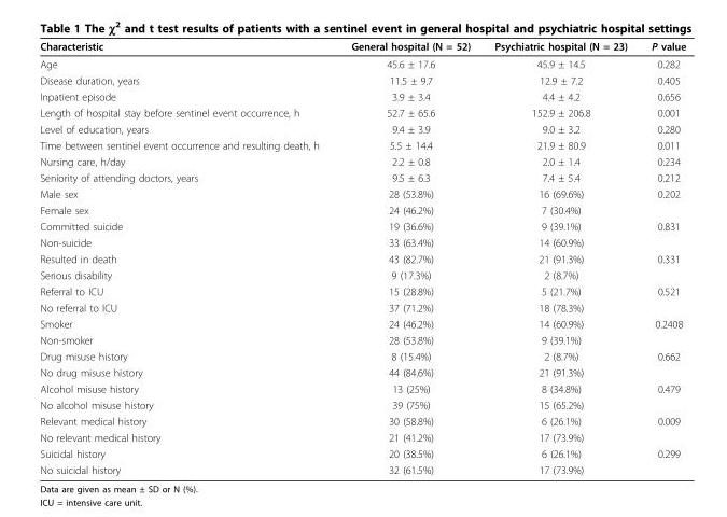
<table><thead><tr><td>Characteristic</td><td>General hospital (N = 52)</td><td>Psychiatric hospital (N = 23)</td><td>P value</td></tr></thead><tbody><tr><td>Age</td><td>45.6 ± 17.6</td><td>45.9 ± 14.5</td><td>0.282</td></tr><tr><td>Disease duration, years</td><td>11.5 ± 9.7</td><td>12.9 ± 7.2</td><td>0.405</td></tr><tr><td>Inpatient episode</td><td>3.9 ± 3.4</td><td>4.4 ± 4.2</td><td>0.656</td></tr><tr><td>Length of hospital stay before sentinel event occurrence, h</td><td>52.7 ± 65.6</td><td>152.9 ± 206.8</td><td>0.001</td></tr><tr><td>Level of education, years</td><td>9.4 ± 3.9</td><td>9.0 ± 3.2</td><td>0.280</td></tr><tr><td>Time between sentinel event occurrence and resulting death, h</td><td>5.5 ± 14.4</td><td>21.9 ± 80.9</td><td>0.011</td></tr><tr><td>Nursing care, h/day</td><td>2.2 ± 0.8</td><td>2.0 ± 1.4</td><td>0.234</td></tr><tr><td>Seniority of attending doctors, years</td><td>9.5 ± 6.3</td><td>7.4 ± 5.4</td><td>0.212</td></tr><tr><td>Male sex</td><td>28 (53.8%)</td><td>16 (69.6%)</td><td>0.202</td></tr><tr><td>Female sex</td><td>24 (46.2%)</td><td>7 (30.4%)</td><td></td></tr><tr><td>Committed suicide</td><td>19 (36.6%)</td><td>9 (39.1%)</td><td>0.831</td></tr><tr><td>Non-suicide</td><td>33 (63.4%)</td><td>14 (60.9%)</td><td></td></tr><tr><td>Resulted in death</td><td>43 (82.7%)</td><td>21 (91.3%)</td><td>0.331</td></tr><tr><td>Serious disability</td><td>9 (17.3%)</td><td>2 (8.7%)</td><td></td></tr><tr><td>Referral to ICU</td><td>15 (28.8%)</td><td>5 (21.7%)</td><td>0.521</td></tr><tr><td>No referral to ICU</td><td>37 (71.2%)</td><td>18 (78.3%)</td><td></td></tr><tr><td>Smoker</td><td>24 (46.2%)</td><td>14 (60.9%)</td><td>0.2408</td></tr><tr><td>Non-smoker</td><td>28 (53.8%)</td><td>9 (39.1%)</td><td></td></tr><tr><td>Drug misuse history</td><td>8 (15.4%)</td><td>2 (8.7%)</td><td>0.662</td></tr><tr><td>No drug misuse history</td><td>44 (84.6%)</td><td>21 (91.3%)</td><td></td></tr><tr><td>Alcohol misuse history</td><td>13 (25%)</td><td>8 (34.8%)</td><td>0.479</td></tr><tr><td>No alcohol misuse history</td><td>39 (75%)</td><td>15 (65.2%)</td><td></td></tr><tr><td>Relevant medical history</td><td>30 (58.8%)</td><td>6 (26.1%)</td><td>0.009</td></tr><tr><td>No relevant medical history</td><td>21 (41.2%)</td><td>17 (73.9%)</td><td></td></tr><tr><td>Suicidal history</td><td>20 (38.5%)</td><td>6 (26.1%)</td><td>0.299</td></tr><tr><td>No suicidal history</td><td>32 (61.5%)</td><td>17 (73.9%)</td><td></td></tr></tbody></table>